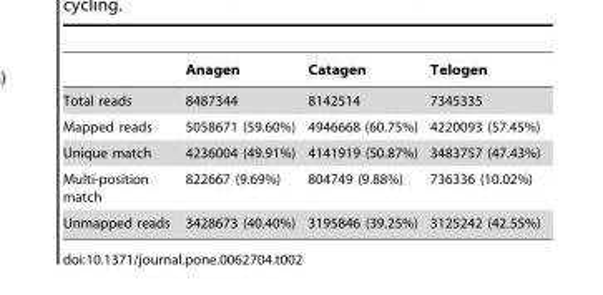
<table><thead><tr><td></td><td>Anagen</td><td>Catagen</td><td>Telogen</td></tr></thead><tbody><tr><td>Total reads</td><td>8487344</td><td>8142514</td><td>7345335</td></tr><tr><td>Mapped reads</td><td>5058671 (59.60%)</td><td>4946668 (60.75%)</td><td>4220093 (57.45%)</td></tr><tr><td>Unique match</td><td>4236004 (49.91%)</td><td>4141919 (50.87%)</td><td>3483757 (47.43%)</td></tr><tr><td>Multi-position match</td><td>822667 (9.69%)</td><td>804749 (9.88%)</td><td>736336 (10.02%)</td></tr><tr><td>Unmapped reads</td><td>3428673 (40.40%)</td><td>3195846 (39.25%)</td><td>3125242 (42.55%)</td></tr></tbody></table>